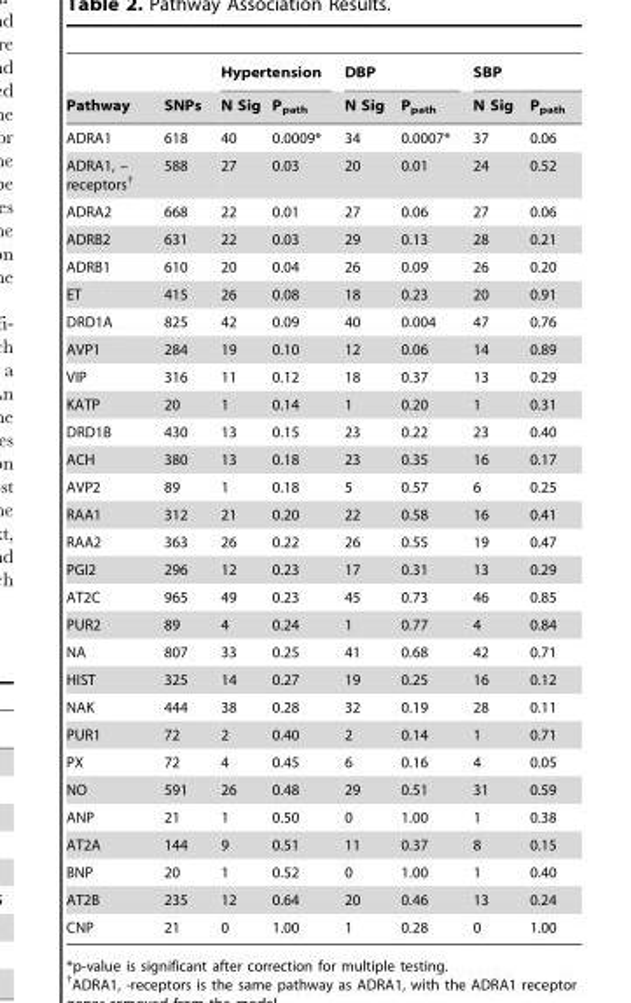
<table><thead><tr><td rowspan="2">Pathway</td><td rowspan="2">SNPs</td><td colspan="2">Hypertension</td><td colspan="2">DBP</td><td colspan="2">SBP</td></tr><tr><td>N Sig</td><td>P<sub>path</sub></td><td>N Sig</td><td>P<sub>path</sub></td><td>N Sig</td><td>P<sub>path</sub></td></tr></thead><tbody><tr><td>ADRA1</td><td>618</td><td>40</td><td>0.0009*</td><td>34</td><td>0.0007*</td><td>37</td><td>0.06</td></tr><tr><td>ADRA1, – receptors†</td><td>588</td><td>27</td><td>0.03</td><td>20</td><td>0.01</td><td>24</td><td>0.52</td></tr><tr><td>ADRA2</td><td>668</td><td>22</td><td>0.01</td><td>27</td><td>0.06</td><td>27</td><td>0.06</td></tr><tr><td>ADRB2</td><td>631</td><td>22</td><td>0.03</td><td>29</td><td>0.13</td><td>28</td><td>0.21</td></tr><tr><td>ADRB1</td><td>610</td><td>20</td><td>0.04</td><td>26</td><td>0.09</td><td>26</td><td>0.20</td></tr><tr><td>ET</td><td>415</td><td>26</td><td>0.08</td><td>18</td><td>0.23</td><td>20</td><td>0.91</td></tr><tr><td>DRD1A</td><td>825</td><td>42</td><td>0.09</td><td>40</td><td>0.004</td><td>47</td><td>0.76</td></tr><tr><td>AVP1</td><td>284</td><td>19</td><td>0.10</td><td>12</td><td>0.06</td><td>14</td><td>0.89</td></tr><tr><td>VIP</td><td>316</td><td>11</td><td>0.12</td><td>18</td><td>0.37</td><td>13</td><td>0.29</td></tr><tr><td>KATP</td><td>20</td><td>1</td><td>0.14</td><td>1</td><td>0.20</td><td>1</td><td>0.31</td></tr><tr><td>DRD1B</td><td>430</td><td>13</td><td>0.15</td><td>23</td><td>0.22</td><td>23</td><td>0.40</td></tr><tr><td>ACH</td><td>380</td><td>13</td><td>0.18</td><td>23</td><td>0.35</td><td>16</td><td>0.17</td></tr><tr><td>AVP2</td><td>89</td><td>1</td><td>0.18</td><td>5</td><td>0.57</td><td>6</td><td>0.25</td></tr><tr><td>RAA1</td><td>312</td><td>21</td><td>0.20</td><td>22</td><td>0.58</td><td>16</td><td>0.41</td></tr><tr><td>RAA2</td><td>363</td><td>26</td><td>0.22</td><td>26</td><td>0.55</td><td>19</td><td>0.47</td></tr><tr><td>PGI2</td><td>296</td><td>12</td><td>0.23</td><td>17</td><td>0.31</td><td>13</td><td>0.29</td></tr><tr><td>AT2C</td><td>965</td><td>49</td><td>0.23</td><td>45</td><td>0.73</td><td>46</td><td>0.85</td></tr><tr><td>PUR2</td><td>89</td><td>4</td><td>0.24</td><td>1</td><td>0.77</td><td>4</td><td>0.84</td></tr><tr><td>NA</td><td>807</td><td>33</td><td>0.25</td><td>41</td><td>0.68</td><td>42</td><td>0.71</td></tr><tr><td>HIST</td><td>325</td><td>14</td><td>0.27</td><td>19</td><td>0.25</td><td>16</td><td>0.12</td></tr><tr><td>NAK</td><td>444</td><td>38</td><td>0.28</td><td>32</td><td>0.19</td><td>28</td><td>0.11</td></tr><tr><td>PUR1</td><td>72</td><td>2</td><td>0.40</td><td>2</td><td>0.14</td><td>1</td><td>0.71</td></tr><tr><td>PX</td><td>72</td><td>4</td><td>0.45</td><td>6</td><td>0.16</td><td>4</td><td>0.05</td></tr><tr><td>NO</td><td>591</td><td>26</td><td>0.48</td><td>29</td><td>0.51</td><td>31</td><td>0.59</td></tr><tr><td>ANP</td><td>21</td><td>1</td><td>0.50</td><td>0</td><td>1.00</td><td>1</td><td>0.38</td></tr><tr><td>AT2A</td><td>144</td><td>9</td><td>0.51</td><td>11</td><td>0.37</td><td>8</td><td>0.15</td></tr><tr><td>BNP</td><td>20</td><td>1</td><td>0.52</td><td>0</td><td>1.00</td><td>1</td><td>0.40</td></tr><tr><td>AT2B</td><td>235</td><td>12</td><td>0.64</td><td>20</td><td>0.46</td><td>13</td><td>0.24</td></tr><tr><td>CNP</td><td>21</td><td>0</td><td>1.00</td><td>1</td><td>0.28</td><td>0</td><td>1.00</td></tr></tbody></table>